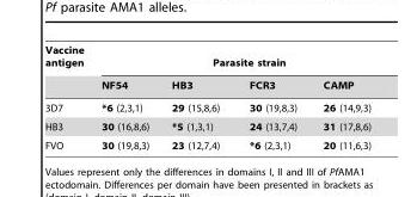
<table><thead><tr><td rowspan="2">Vaccine antigen</td><td colspan="4">Parasite strain</td></tr><tr><td>NF54</td><td>HB3</td><td>FCR3</td><td>CAMP</td></tr></thead><tbody><tr><td>3D7</td><td>*6 (2,3,1)</td><td>29 (15,8,6)</td><td>30 (19,8,3)</td><td>26 (14,9,3)</td></tr><tr><td>HB3</td><td>30 (16,8,6)</td><td>*5 (1,3,1)</td><td>24 (13,7,4)</td><td>31 (17,8,6)</td></tr><tr><td>FVO</td><td>30 (19,8,3)</td><td>23 (12,7,4)</td><td>*6 (2,3,1)</td><td>20 (11,6,3)</td></tr></tbody></table>